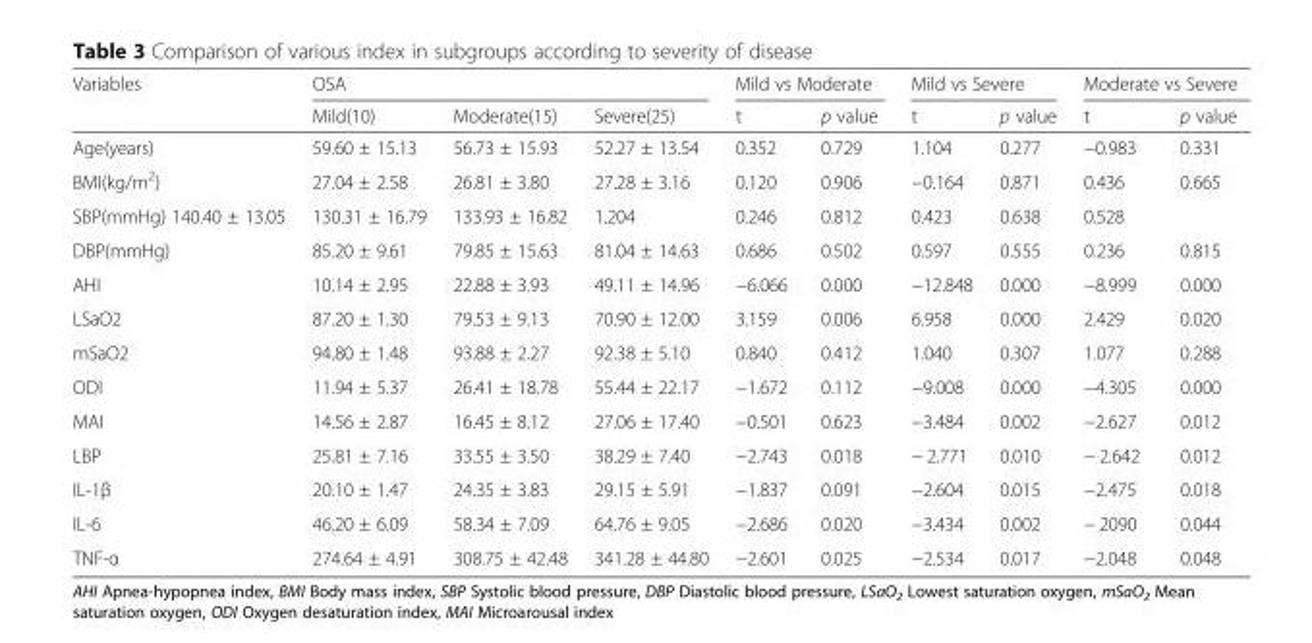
<table><thead><tr><td rowspan="2">Variables</td><td colspan="3">OSA</td><td colspan="2">Mild vs Moderate</td><td colspan="2">Mild vs Severe</td><td colspan="2">Moderate vs Severe</td></tr><tr><td>Mild(10)</td><td>Moderate(15)</td><td>Severe(25)</td><td>t</td><td>p value</td><td>t</td><td>p value</td><td>t</td><td>p value</td></tr></thead><tbody><tr><td>Age(years)</td><td>59.60 ± 15.13</td><td>56.73 ± 15.93</td><td>52.27 ± 13.54</td><td>0.352</td><td>0.729</td><td>1.104</td><td>0.277</td><td>−0.983</td><td>0.331</td></tr><tr><td>BMI(kg/m<sup>2</sup>)</td><td>27.04 ± 2.58</td><td>26.81 ± 3.80</td><td>27.28 ± 3.16</td><td>0.120</td><td>0.906</td><td>−0.164</td><td>0.871</td><td>0.436</td><td>0.665</td></tr><tr><td>SBP(mmHg) 140.40 ± 13.05</td><td>130.31 ± 16.79</td><td>133.93 ± 16.82</td><td>1.204</td><td>0.246</td><td>0.812</td><td>0.423</td><td>0.638</td><td>0.528</td><td></td></tr><tr><td>DBP(mmHg)</td><td>85.20 ± 9.61</td><td>79.85 ± 15.63</td><td>81.04 ± 14.63</td><td>0.686</td><td>0.502</td><td>0.597</td><td>0.555</td><td>0.236</td><td>0.815</td></tr><tr><td>AHI</td><td>10.14 ± 2.95</td><td>22.88 ± 3.93</td><td>49.11 ± 14.96</td><td>−6.066</td><td>0.000</td><td>−12.848</td><td>0.000</td><td>−8.999</td><td>0.000</td></tr><tr><td>LSaO2</td><td>87.20 ± 1.30</td><td>79.53 ± 9.13</td><td>70.90 ± 12.00</td><td>3.159</td><td>0.006</td><td>6.958</td><td>0.000</td><td>2.429</td><td>0.020</td></tr><tr><td>mSaO2</td><td>94.80 ± 1.48</td><td>93.88 ± 2.27</td><td>92.38 ± 5.10</td><td>0.840</td><td>0.412</td><td>1.040</td><td>0.307</td><td>1.077</td><td>0.288</td></tr><tr><td>ODI</td><td>11.94 ± 5.37</td><td>26.41 ± 18.78</td><td>55.44 ± 22.17</td><td>−1.672</td><td>0.112</td><td>−9.008</td><td>0.000</td><td>−4.305</td><td>0.000</td></tr><tr><td>MAI</td><td>14.56 ± 2.87</td><td>16.45 ± 8.12</td><td>27.06 ± 17.40</td><td>−0.501</td><td>0.623</td><td>−3.484</td><td>0.002</td><td>−2.627</td><td>0.012</td></tr><tr><td>LBP</td><td>25.81 ± 7.16</td><td>33.55 ± 3.50</td><td>38.29 ± 7.40</td><td>−2.743</td><td>0.018</td><td>− 2.771</td><td>0.010</td><td>− 2.642</td><td>0.012</td></tr><tr><td>IL-1β</td><td>20.10 ± 1.47</td><td>24.35 ± 3.83</td><td>29.15 ± 5.91</td><td>−1.837</td><td>0.091</td><td>−2.604</td><td>0.015</td><td>−2.475</td><td>0.018</td></tr><tr><td>IL-6</td><td>46.20 ± 6.09</td><td>58.34 ± 7.09</td><td>64.76 ± 9.05</td><td>−2.686</td><td>0.020</td><td>−3.434</td><td>0.002</td><td>− 2090</td><td>0.044</td></tr><tr><td>TNF-α</td><td>274.64 ± 4.91</td><td>308.75 ± 42.48</td><td>341.28 ± 44.80</td><td>−2.601</td><td>0.025</td><td>−2.534</td><td>0.017</td><td>−2.048</td><td>0.048</td></tr></tbody></table>